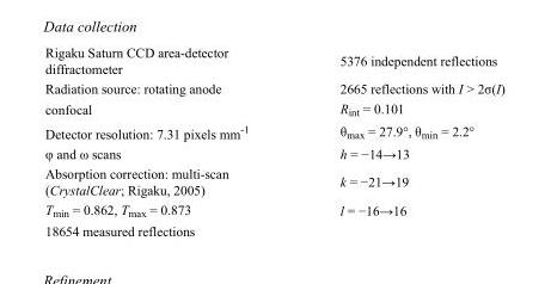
<table><tbody><tr><td>Rigaku Saturn CCD area-detector diffractometer</td><td>5376 independent reflections</td></tr><tr><td>Radiation source: rotating anode</td><td>2665 reflections with I &gt; 2σ(I)</td></tr><tr><td>confocal</td><td>R<sub>int</sub> = 0.101</td></tr><tr><td>Detector resolution: 7.31 pixels mm<sup>-1</sup></td><td>θ<sub>max</sub> = 27.9°, θ<sub>min</sub> = 2.2°</td></tr><tr><td>φ and ω scans</td><td>h = −14→13</td></tr><tr><td>Absorption correction: multi-scan (CrystalClear; Rigaku, 2005)</td><td>k = −21→19</td></tr><tr><td>T<sub>min</sub> = 0.862, T<sub>max</sub> = 0.873</td><td>l = −16→16</td></tr><tr><td>18654 measured reflections</td><td></td></tr></tbody></table>